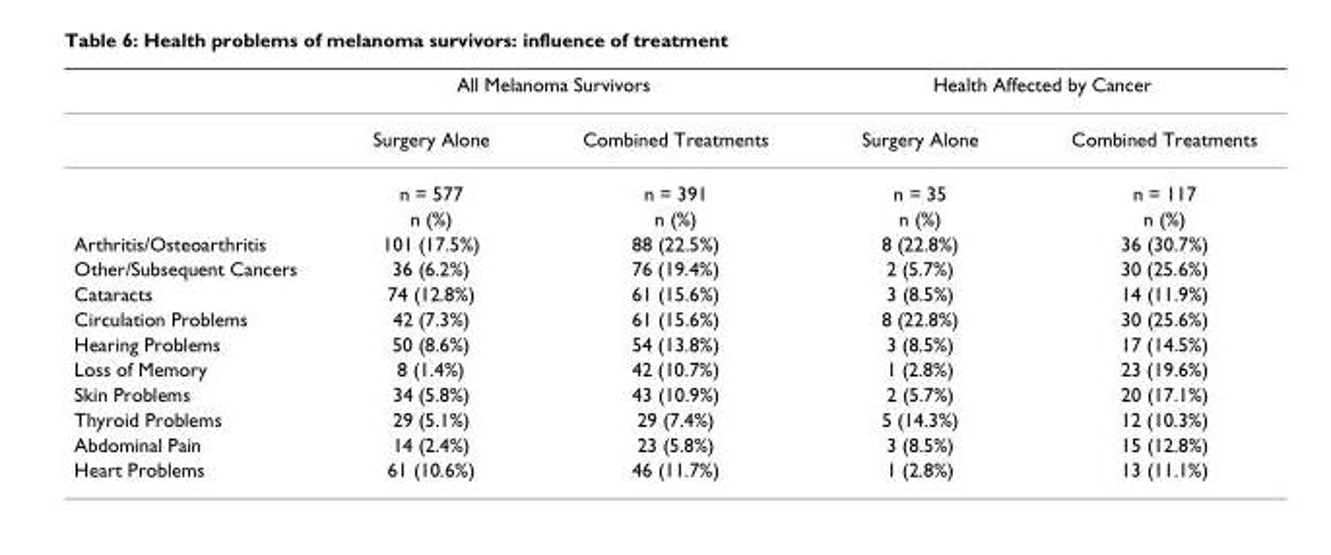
<table><thead><tr><td rowspan="2"></td><td colspan="2">All Melanoma Survivors</td><td colspan="2">Health Affected by Cancer</td></tr><tr><td>Surgery Alone</td><td>Combined Treatments</td><td>Surgery Alone</td><td>Combined Treatments</td></tr></thead><tbody><tr><td></td><td>n = 577</td><td>n = 391</td><td>n = 35</td><td>n = 117</td></tr><tr><td></td><td>n (%)</td><td>n (%)</td><td>n (%)</td><td>n (%)</td></tr><tr><td>Arthritis/Osteoarthritis</td><td>101 (17.5%)</td><td>88 (22.5%)</td><td>8 (22.8%)</td><td>36 (30.7%)</td></tr><tr><td>Other/Subsequent Cancers</td><td>36 (6.2%)</td><td>76 (19.4%)</td><td>2 (5.7%)</td><td>30 (25.6%)</td></tr><tr><td>Cataracts</td><td>74 (12.8%)</td><td>61 (15.6%)</td><td>3 (8.5%)</td><td>14 (11.9%)</td></tr><tr><td>Circulation Problems</td><td>42 (7.3%)</td><td>61 (15.6%)</td><td>8 (22.8%)</td><td>30 (25.6%)</td></tr><tr><td>Hearing Problems</td><td>50 (8.6%)</td><td>54 (13.8%)</td><td>3 (8.5%)</td><td>17 (14.5%)</td></tr><tr><td>Loss of Memory</td><td>8 (1.4%)</td><td>42 (10.7%)</td><td>1 (2.8%)</td><td>23 (19.6%)</td></tr><tr><td>Skin Problems</td><td>34 (5.8%)</td><td>43 (10.9%)</td><td>2 (5.7%)</td><td>20 (17.1%)</td></tr><tr><td>Thyroid Problems</td><td>29 (5.1%)</td><td>29 (7.4%)</td><td>5 (14.3%)</td><td>12 (10.3%)</td></tr><tr><td>Abdominal Pain</td><td>14 (2.4%)</td><td>23 (5.8%)</td><td>3 (8.5%)</td><td>15 (12.8%)</td></tr><tr><td>Heart Problems</td><td>61 (10.6%)</td><td>46 (11.7%)</td><td>1 (2.8%)</td><td>13 (11.1%)</td></tr></tbody></table>